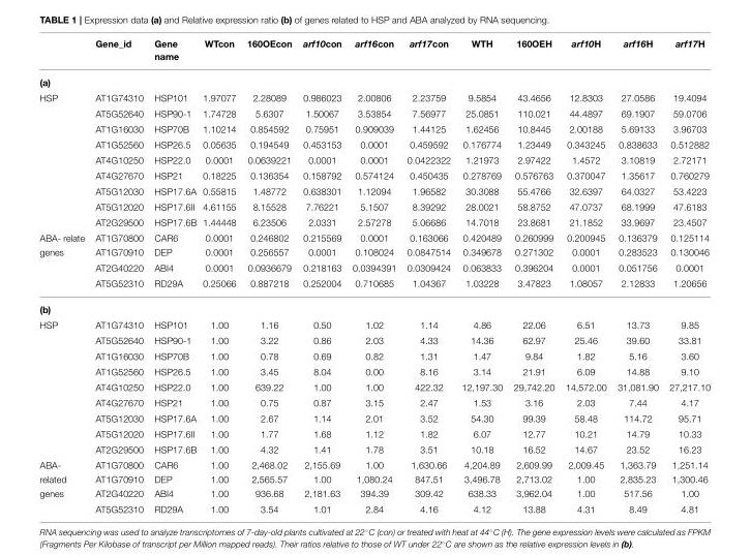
<table><thead><tr><td></td><td>Gene_id</td><td>Gene name</td><td>WTcon</td><td>160OEcon</td><td>arf10con</td><td>arf16con</td><td>arf17con</td><td>WTH</td><td>160OEH</td><td>arf10H</td><td>arf16H</td><td>arf17H</td></tr></thead><tbody><tr><td colspan="13">(a)</td></tr><tr><td rowspan="9">HSP</td><td>AT1G74310</td><td>HSP101</td><td>1.97077</td><td>2.28089</td><td>0.986023</td><td>2.00806</td><td>2.23759</td><td>9.5854</td><td>43.4656</td><td>12.8303</td><td>27.0586</td><td>19.4094</td></tr><tr><td>AT5G52640</td><td>HSP90-1</td><td>1.74728</td><td>5.6307</td><td>1.50067</td><td>3.53854</td><td>7.56977</td><td>25.0851</td><td>110.021</td><td>44.4897</td><td>69.1907</td><td>59.0706</td></tr><tr><td>AT1G16030</td><td>HSP70B</td><td>1.10214</td><td>0.854592</td><td>0.75951</td><td>0.909039</td><td>1.44125</td><td>1.62456</td><td>10.8445</td><td>2.00188</td><td>5.69133</td><td>3.96703</td></tr><tr><td>AT1G52560</td><td>HSP26.5</td><td>0.05635</td><td>0.194549</td><td>0.453153</td><td>0.0001</td><td>0.459592</td><td>0.176774</td><td>1.23449</td><td>0.343245</td><td>0.838633</td><td>0.512882</td></tr><tr><td>AT4G10250</td><td>HSP22.0</td><td>0.0001</td><td>0.0639221</td><td>0.0001</td><td>0.0001</td><td>0.0422322</td><td>1.21973</td><td>2.97422</td><td>1.4572</td><td>3.10819</td><td>2.72171</td></tr><tr><td>AT4G27670</td><td>HSP21</td><td>0.18225</td><td>0.136354</td><td>0.158792</td><td>0.574124</td><td>0.450435</td><td>0.278769</td><td>0.576763</td><td>0.370047</td><td>1.35617</td><td>0.760279</td></tr><tr><td>AT5G12030</td><td>HSP17.6A</td><td>0.55815</td><td>1.48772</td><td>0.638301</td><td>1.12094</td><td>1.96582</td><td>30.3088</td><td>55.4766</td><td>32.6397</td><td>64.0327</td><td>53.4223</td></tr><tr><td>AT5G12020</td><td>HSP17.6II</td><td>4.61155</td><td>8.15528</td><td>7.76221</td><td>5.1507</td><td>8.39292</td><td>28.0021</td><td>58.8752</td><td>47.0737</td><td>68.1999</td><td>47.6183</td></tr><tr><td>AT2G29500</td><td>HSP17.6B</td><td>1.44448</td><td>6.23506</td><td>2.0331</td><td>2.57278</td><td>5.06686</td><td>14.7018</td><td>23.8681</td><td>21.1852</td><td>33.9697</td><td>23.4507</td></tr><tr><td rowspan="4">ABA- relate genes</td><td>AT1G70800</td><td>CAR6</td><td>0.0001</td><td>0.246802</td><td>0.215569</td><td>0.0001</td><td>0.163066</td><td>0.420489</td><td>0.260999</td><td>0.200945</td><td>0.136379</td><td>0.125114</td></tr><tr><td>AT1G70910</td><td>DEP</td><td>0.0001</td><td>0.256557</td><td>0.0001</td><td>0.108024</td><td>0.0847514</td><td>0.349678</td><td>0.271302</td><td>0.0001</td><td>0.283523</td><td>0.130046</td></tr><tr><td>AT2G40220</td><td>ABI4</td><td>0.0001</td><td>0.0936679</td><td>0.218163</td><td>0.0394391</td><td>0.0309424</td><td>0.063833</td><td>0.396204</td><td>0.0001</td><td>0.051756</td><td>0.0001</td></tr><tr><td>AT5G52310</td><td>RD29A</td><td>0.25066</td><td>0.887218</td><td>0.252004</td><td>0.710685</td><td>1.04367</td><td>1.03228</td><td>3.47823</td><td>1.08057</td><td>2.12833</td><td>1.20656</td></tr><tr><td colspan="13">(b)</td></tr><tr><td rowspan="9">HSP</td><td>AT1G74310</td><td>HSP101</td><td>1.00</td><td>1.16</td><td>0.50</td><td>1.02</td><td>1.14</td><td>4.86</td><td>22.06</td><td>6.51</td><td>13.73</td><td>9.85</td></tr><tr><td>AT5G52640</td><td>HSP90-1</td><td>1.00</td><td>3.22</td><td>0.86</td><td>2.03</td><td>4.33</td><td>14.36</td><td>62.97</td><td>25.46</td><td>39.60</td><td>33.81</td></tr><tr><td>AT1G16030</td><td>HSP70B</td><td>1.00</td><td>0.78</td><td>0.69</td><td>0.82</td><td>1.31</td><td>1.47</td><td>9.84</td><td>1.82</td><td>5.16</td><td>3.60</td></tr><tr><td>AT1G52560</td><td>HSP26.5</td><td>1.00</td><td>3.45</td><td>8.04</td><td>0.00</td><td>8.16</td><td>3.14</td><td>21.91</td><td>6.09</td><td>14.88</td><td>9.10</td></tr><tr><td>AT4G10250</td><td>HSP22.0</td><td>1.00</td><td>639.22</td><td>1.00</td><td>1.00</td><td>422.32</td><td>12,197.30</td><td>29,742.20</td><td>14,572.00</td><td>31,081.90</td><td>27,217.10</td></tr><tr><td>AT4G27670</td><td>HSP21</td><td>1.00</td><td>0.75</td><td>0.87</td><td>3.15</td><td>2.47</td><td>1.53</td><td>3.16</td><td>2.03</td><td>7.44</td><td>4.17</td></tr><tr><td>AT5G12030</td><td>HSP17.6A</td><td>1.00</td><td>2.67</td><td>1.14</td><td>2.01</td><td>3.52</td><td>54.30</td><td>99.39</td><td>58.48</td><td>114.72</td><td>95.71</td></tr><tr><td>AT5G12020</td><td>HSP17.6II</td><td>1.00</td><td>1.77</td><td>1.68</td><td>1.12</td><td>1.82</td><td>6.07</td><td>12.77</td><td>10.21</td><td>14.79</td><td>10.33</td></tr><tr><td>AT2G29500</td><td>HSP17.6B</td><td>1.00</td><td>4.32</td><td>1.41</td><td>1.78</td><td>3.51</td><td>10.18</td><td>16.52</td><td>14.67</td><td>23.52</td><td>16.23</td></tr><tr><td rowspan="4">ABA- related genes</td><td>AT1G70800</td><td>CAR6</td><td>1.00</td><td>2,468.02</td><td>2,155.69</td><td>1.00</td><td>1,630.66</td><td>4,204.89</td><td>2,609.99</td><td>2,009.45</td><td>1,363.79</td><td>1,251.14</td></tr><tr><td>AT1G70910</td><td>DEP</td><td>1.00</td><td>2,565.57</td><td>1.00</td><td>1,080.24</td><td>847.51</td><td>3,496.78</td><td>2,713.02</td><td>1.00</td><td>2,835.23</td><td>1,300.46</td></tr><tr><td>AT2G40220</td><td>ABI4</td><td>1.00</td><td>936.68</td><td>2,181.63</td><td>394.39</td><td>309.42</td><td>638.33</td><td>3,962.04</td><td>1.00</td><td>517.56</td><td>1.00</td></tr><tr><td>AT5G52310</td><td>RD29A</td><td>1.00</td><td>3.54</td><td>1.01</td><td>2.84</td><td>4.16</td><td>4.12</td><td>13.88</td><td>4.31</td><td>8.49</td><td>4.81</td></tr></tbody></table>